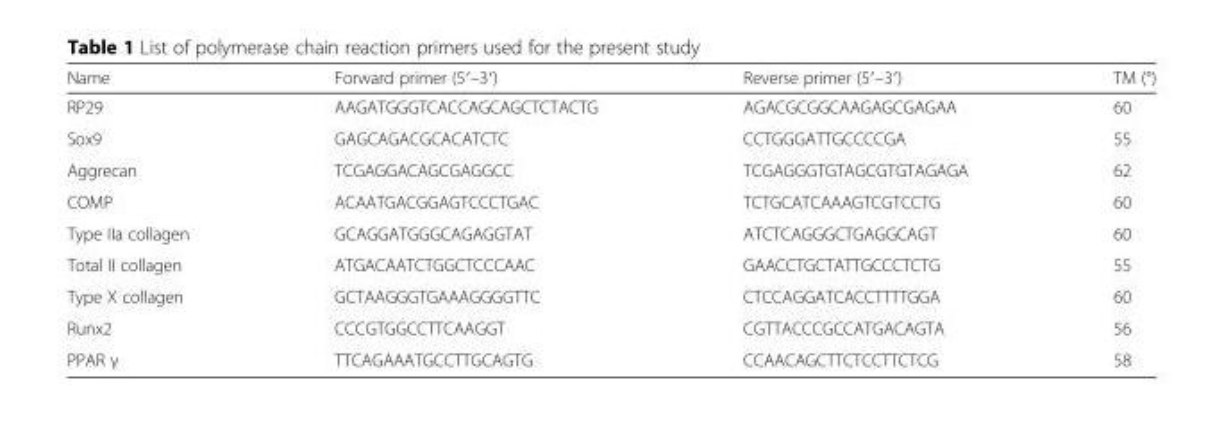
<table><thead><tr><td>Name</td><td>Forward primer (5′–3′)</td><td>Reverse primer (5′–3′)</td><td>TM (°)</td></tr></thead><tbody><tr><td>RP29</td><td>AAGATGGGTCACCAGCAGCTCTACTG</td><td>AGACGCGGCAAGAGCGAGAA</td><td>60</td></tr><tr><td>Sox9</td><td>GAGCAGACGCACATCTC</td><td>CCTGGGATTGCCCCGA</td><td>55</td></tr><tr><td>Aggrecan</td><td>TCGAGGACAGCGAGGCC</td><td>TCGAGGGTGTAGCGTGTAGAGA</td><td>62</td></tr><tr><td>COMP</td><td>ACAATGACGGAGTCCCTGAC</td><td>TCTGCATCAAAGTCGTCCTG</td><td>60</td></tr><tr><td>Type IIa collagen</td><td>GCAGGATGGGCAGAGGTAT</td><td>ATCTCAGGGCTGAGGCAGT</td><td>60</td></tr><tr><td>Total II collagen</td><td>ATGACAATCTGGCTCCCAAC</td><td>GAACCTGCTATTGCCCTCTG</td><td>55</td></tr><tr><td>Type X collagen</td><td>GCTAAGGGTGAAAGGGGTTC</td><td>CTCCAGGATCACCTTTTGGA</td><td>60</td></tr><tr><td>Runx2</td><td>CCCGTGGCCTTCAAGGT</td><td>CGTTACCCGCCATGACAGTA</td><td>56</td></tr><tr><td>PPAR γ</td><td>TTCAGAAATGCCTTGCAGTG</td><td>CCAACAGCTTCTCCTTCTCG</td><td>58</td></tr></tbody></table>